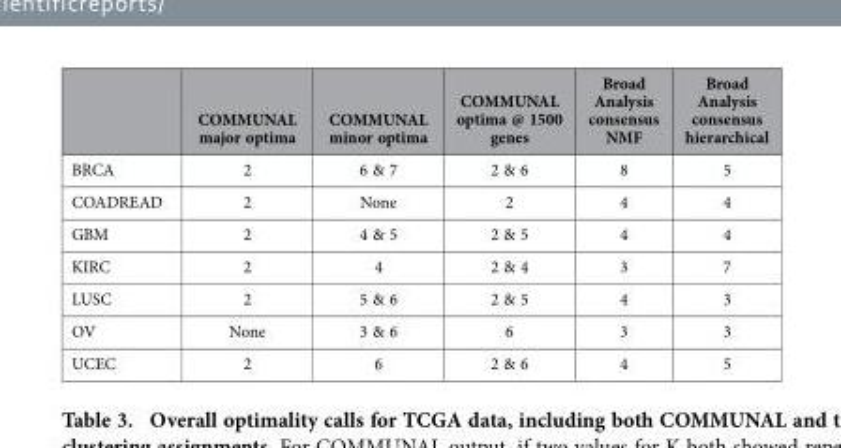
<table><thead><tr><td></td><td>COMMUNAL major optima</td><td>COMMUNAL minor optima</td><td>COMMUNAL optima @ 1500 genes</td><td>Broad Analysis consensus NMF</td><td>Broad Analysis consensus hierarchical</td></tr></thead><tbody><tr><td>BRCA</td><td>2</td><td>6 &amp; 7</td><td>2 &amp; 6</td><td>8</td><td>5</td></tr><tr><td>COADREAD</td><td>2</td><td>None</td><td>2</td><td>4</td><td>4</td></tr><tr><td>GBM</td><td>2</td><td>4 &amp; 5</td><td>2 &amp; 5</td><td>4</td><td>4</td></tr><tr><td>KIRC</td><td>2</td><td>4</td><td>2 &amp; 4</td><td>3</td><td>7</td></tr><tr><td>LUSC</td><td>2</td><td>5 &amp; 6</td><td>2 &amp; 5</td><td>4</td><td>3</td></tr><tr><td>OV</td><td>None</td><td>3 &amp; 6</td><td>6</td><td>3</td><td>3</td></tr><tr><td>UCEC</td><td>2</td><td>6</td><td>2 &amp; 6</td><td>4</td><td>5</td></tr></tbody></table>